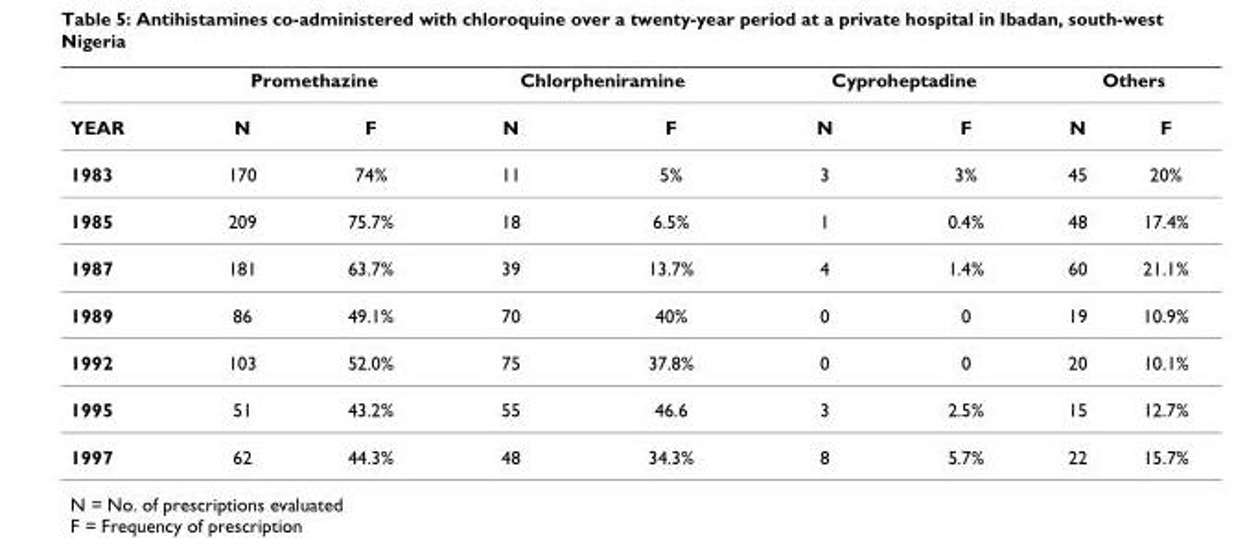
<table><thead><tr><td rowspan="2">YEAR</td><td colspan="2">Promethazine</td><td colspan="2">Chlorpheniramine</td><td colspan="2">Cyproheptadine</td><td colspan="2">Others</td></tr><tr><td>N</td><td>F</td><td>N</td><td>F</td><td>N</td><td>F</td><td>N</td><td>F</td></tr></thead><tbody><tr><td>1983</td><td>170</td><td>74%</td><td>11</td><td>5%</td><td>3</td><td>3%</td><td>45</td><td>20%</td></tr><tr><td>1985</td><td>209</td><td>75.7%</td><td>18</td><td>6.5%</td><td>1</td><td>0.4%</td><td>48</td><td>17.4%</td></tr><tr><td>1987</td><td>181</td><td>63.7%</td><td>39</td><td>13.7%</td><td>4</td><td>1.4%</td><td>60</td><td>21.1%</td></tr><tr><td>1989</td><td>86</td><td>49.1%</td><td>70</td><td>40%</td><td>0</td><td>0</td><td>19</td><td>10.9%</td></tr><tr><td>1992</td><td>103</td><td>52.0%</td><td>75</td><td>37.8%</td><td>0</td><td>0</td><td>20</td><td>10.1%</td></tr><tr><td>1995</td><td>51</td><td>43.2%</td><td>55</td><td>46.6</td><td>3</td><td>2.5%</td><td>15</td><td>12.7%</td></tr><tr><td>1997</td><td>62</td><td>44.3%</td><td>48</td><td>34.3%</td><td>8</td><td>5.7%</td><td>22</td><td>15.7%</td></tr></tbody></table>